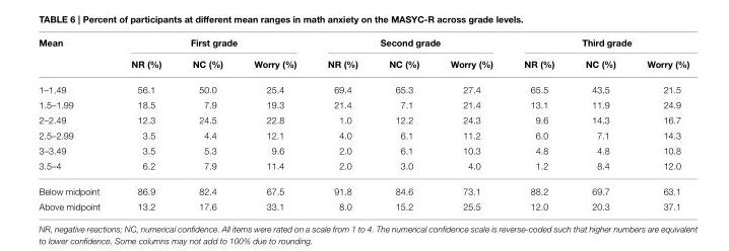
<table><thead><tr><td rowspan="2">Mean</td><td colspan="3">First grade</td><td colspan="3">Second grade</td><td colspan="3">Third grade</td></tr><tr><td>NR (%)</td><td>NC (%)</td><td>Worry (%)</td><td>NR (%)</td><td>NC (%)</td><td>Worry (%)</td><td>NR (%)</td><td>NC (%)</td><td>Worry (%)</td></tr></thead><tbody><tr><td>1–1.49</td><td>56.1</td><td>50.0</td><td>25.4</td><td>69.4</td><td>65.3</td><td>27.4</td><td>65.5</td><td>43.5</td><td>21.5</td></tr><tr><td>1.5–1.99</td><td>18.5</td><td>7.9</td><td>19.3</td><td>21.4</td><td>7.1</td><td>21.4</td><td>13.1</td><td>11.9</td><td>24.9</td></tr><tr><td>2–2.49</td><td>12.3</td><td>24.5</td><td>22.8</td><td>1.0</td><td>12.2</td><td>24.3</td><td>9.6</td><td>14.3</td><td>16.7</td></tr><tr><td>2.5–2.99</td><td>3.5</td><td>4.4</td><td>12.1</td><td>4.0</td><td>6.1</td><td>11.2</td><td>6.0</td><td>7.1</td><td>14.3</td></tr><tr><td>3–3.49</td><td>3.5</td><td>5.3</td><td>9.6</td><td>2.0</td><td>6.1</td><td>10.3</td><td>4.8</td><td>4.8</td><td>10.8</td></tr><tr><td>3.5–4</td><td>6.2</td><td>7.9</td><td>11.4</td><td>2.0</td><td>3.0</td><td>4.0</td><td>1.2</td><td>8.4</td><td>12.0</td></tr><tr><td>Below midpoint</td><td>86.9</td><td>82.4</td><td>67.5</td><td>91.8</td><td>84.6</td><td>73.1</td><td>88.2</td><td>69.7</td><td>63.1</td></tr><tr><td>Above midpoint</td><td>13.2</td><td>17.6</td><td>33.1</td><td>8.0</td><td>15.2</td><td>25.5</td><td>12.0</td><td>20.3</td><td>37.1</td></tr></tbody></table>